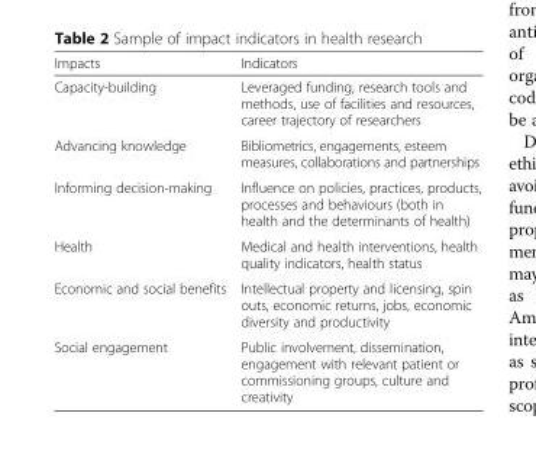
<table><thead><tr><td>Impacts</td><td>Indicators</td></tr></thead><tbody><tr><td>Capacity-building</td><td>Leveraged funding, research tools and methods, use of facilities and resources, career trajectory of researchers</td></tr><tr><td>Advancing knowledge</td><td>Bibliometrics, engagements, esteem measures, collaborations and partnerships</td></tr><tr><td>Informing decision-making</td><td>Influence on policies, practices, products, processes and behaviours (both in health and the determinants of health)</td></tr><tr><td>Health</td><td>Medical and health interventions, health quality indicators, health status</td></tr><tr><td>Economic and social benefits</td><td>Intellectual property and licensing, spin outs, economic returns, jobs, economic diversity and productivity</td></tr><tr><td>Social engagement</td><td>Public involvement, dissemination, engagement with relevant patient or commissioning groups, culture and creativity</td></tr></tbody></table>